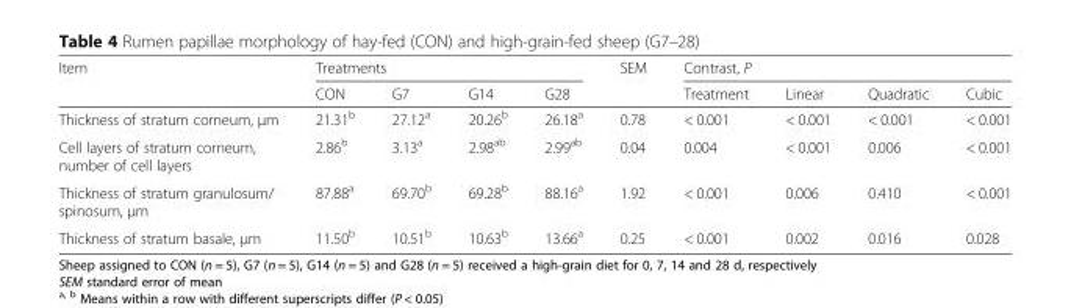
<table><thead><tr><td rowspan="2">Item</td><td colspan="4">Treatments</td><td rowspan="2">SEM</td><td colspan="4">Contrast, P</td></tr><tr><td>CON</td><td>G7</td><td>G14</td><td>G28</td><td>Treatment</td><td>Linear</td><td>Quadratic</td><td>Cubic</td></tr></thead><tbody><tr><td>Thickness of stratum corneum, μm</td><td>21.31<sup>b</sup></td><td>27.12<sup>a</sup></td><td>20.26<sup>b</sup></td><td>26.18<sup>a</sup></td><td>0.78</td><td>&lt; 0.001</td><td>&lt; 0.001</td><td>&lt; 0.001</td><td>&lt; 0.001</td></tr><tr><td>Cell layers of stratum corneum, number of cell layers</td><td>2.86<sup>b</sup></td><td>3.13<sup>a</sup></td><td>2.98<sup>ab</sup></td><td>2.99<sup>ab</sup></td><td>0.04</td><td>0.004</td><td>&lt; 0.001</td><td>0.006</td><td>&lt; 0.001</td></tr><tr><td>Thickness of stratum granulosum/ spinosum, μm</td><td>87.88<sup>a</sup></td><td>69.70<sup>b</sup></td><td>69.28<sup>b</sup></td><td>88.16<sup>a</sup></td><td>1.92</td><td>&lt; 0.001</td><td>0.006</td><td>0.410</td><td>&lt; 0.001</td></tr><tr><td>Thickness of stratum basale, μm</td><td>11.50<sup>b</sup></td><td>10.51<sup>b</sup></td><td>10.63<sup>b</sup></td><td>13.66<sup>a</sup></td><td>0.25</td><td>&lt; 0.001</td><td>0.002</td><td>0.016</td><td>0.028</td></tr></tbody></table>